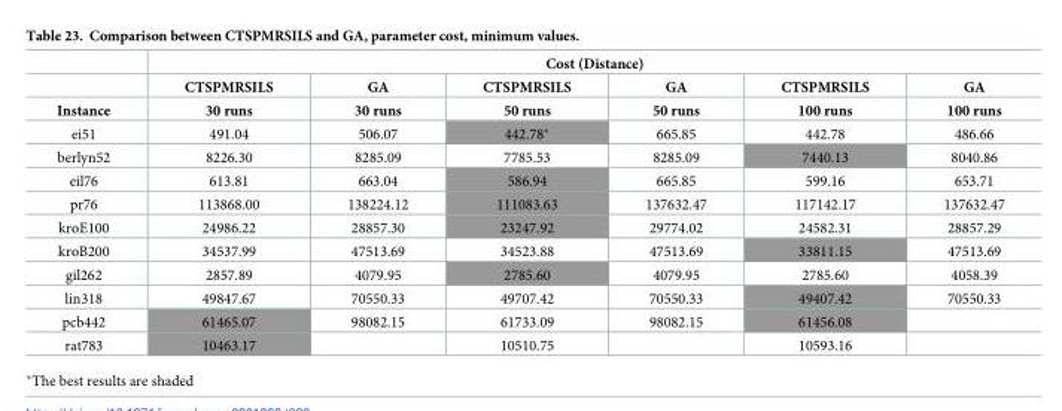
<table><thead><tr><td rowspan="3">Instance</td><td colspan="6">Cost (Distance)</td></tr><tr><td rowspan="2">CTSPMRSILS 30 runs</td><td rowspan="2">GA 30 runs</td><td rowspan="2">CTSPMRSILS 50 runs</td><td rowspan="2">GA 50 runs</td><td rowspan="2">CTSPMRSILS 100 runs</td><td rowspan="2">GA 100 runs</td></tr><tr></tr></thead><tbody><tr><td>ei51</td><td>491.04</td><td>506.07</td><td>442.78*</td><td>665.85</td><td>442.78</td><td>486.66</td></tr><tr><td>berlyn52</td><td>8226.30</td><td>8285.09</td><td>7785.53</td><td>8285.09</td><td>7440.13</td><td>8040.86</td></tr><tr><td>eil76</td><td>613.81</td><td>663.04</td><td>586.94</td><td>665.85</td><td>599.16</td><td>653.71</td></tr><tr><td>pr76</td><td>113868.00</td><td>138224.12</td><td>111083.63</td><td>137632.47</td><td>117142.17</td><td>137632.47</td></tr><tr><td>kroE100</td><td>24986.22</td><td>28857.30</td><td>23247.92</td><td>29774.02</td><td>24582.31</td><td>28857.29</td></tr><tr><td>kroB200</td><td>34537.99</td><td>47513.69</td><td>34523.88</td><td>47513.69</td><td>33811.15</td><td>47513.69</td></tr><tr><td>gil262</td><td>2857.89</td><td>4079.95</td><td>2785.60</td><td>4079.95</td><td>2785.60</td><td>4058.39</td></tr><tr><td>lin318</td><td>49847.67</td><td>70550.33</td><td>49707.42</td><td>70550.33</td><td>49407.42</td><td>70550.33</td></tr><tr><td>pcb442</td><td>61465.07</td><td>98082.15</td><td>61733.09</td><td>98082.15</td><td>61456.08</td><td></td></tr><tr><td>rat783</td><td>10463.17</td><td></td><td>10510.75</td><td></td><td>10593.16</td><td></td></tr></tbody></table>